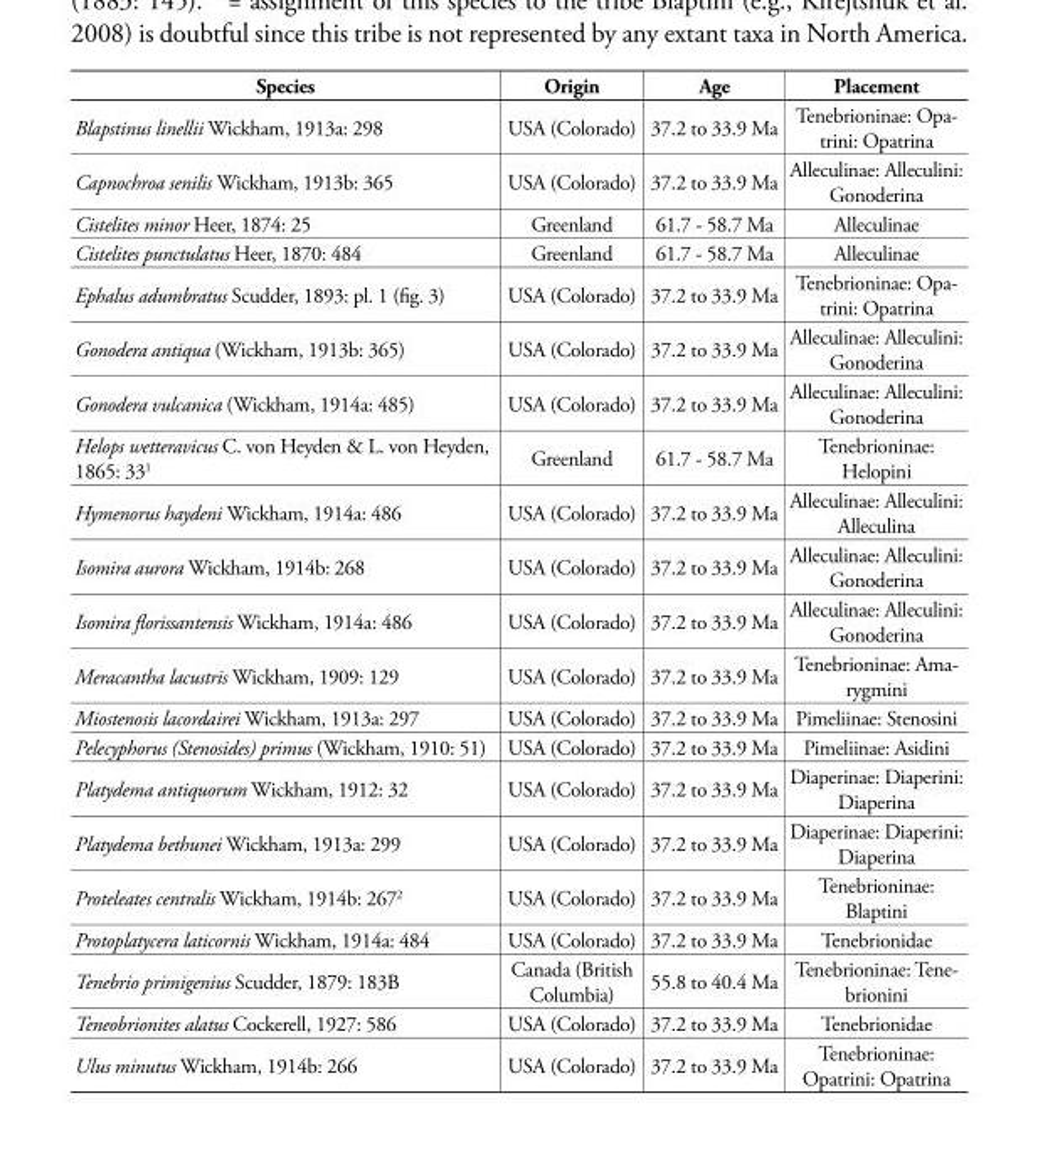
<table><thead><tr><td>Species</td><td>Origin</td><td>Age</td><td>Placement</td></tr></thead><tbody><tr><td>Blapstinus linellii Wickham, 1913a: 298</td><td>USA (Colorado)</td><td>37.2 to 33.9 Ma</td><td>Tenebrioninae: Opa- trini: Opatrina</td></tr><tr><td>Capnochroa senilis Wickham, 1913b: 365</td><td>USA (Colorado)</td><td>37.2 to 33.9 Ma</td><td>Alleculinae: Alleculini: Gonoderina</td></tr><tr><td>Cistelites minor Heer, 1874: 25</td><td>Greenland</td><td>61.7 - 58.7 Ma</td><td>Alleculinae</td></tr><tr><td>Cistelites punctulatus Heer, 1870: 484</td><td>Greenland</td><td>61.7 - 58.7 Ma</td><td>Alleculinae</td></tr><tr><td>Ephalus adumbratus Scudder, 1893: pl. 1 (fig. 3)</td><td>USA (Colorado)</td><td>37.2 to 33.9 Ma</td><td>Tenebrioninae: Opa- trini: Opatrina</td></tr><tr><td>Gonodera antiqua (Wickham, 1913b: 365)</td><td>USA (Colorado)</td><td>37.2 to 33.9 Ma</td><td>Alleculinae: Alleculini: Gonoderina</td></tr><tr><td>Gonodera vulcanica (Wickham, 1914a: 485)</td><td>USA (Colorado)</td><td>37.2 to 33.9 Ma</td><td>Alleculinae: Alleculini: Gonoderina</td></tr><tr><td>Helops wetteravicus C. von Heyden &amp; L. von Heyden, 1865: 33<sup>1</sup></td><td>Greenland</td><td>61.7 - 58.7 Ma</td><td>Tenebrioninae: Helopini</td></tr><tr><td>Hymenorus haydeni Wickham, 1914a: 486</td><td>USA (Colorado)</td><td>37.2 to 33.9 Ma</td><td>Alleculinae: Alleculini: Alleculina</td></tr><tr><td>Isomira aurora Wickham, 1914b: 268</td><td>USA (Colorado)</td><td>37.2 to 33.9 Ma</td><td>Alleculinae: Alleculini: Gonoderina</td></tr><tr><td>Isomira florissantensis Wickham, 1914a: 486</td><td>USA (Colorado)</td><td>37.2 to 33.9 Ma</td><td>Alleculinae: Alleculini: Gonoderina</td></tr><tr><td>Meracantha lacustris Wickham, 1909: 129</td><td>USA (Colorado)</td><td>37.2 to 33.9 Ma</td><td>Tenebrioninae: Ama- rygmini</td></tr><tr><td>Miostenosis lacordairei Wickham, 1913a: 297</td><td>USA (Colorado)</td><td>37.2 to 33.9 Ma</td><td>Pimeliinae: Stenosini</td></tr><tr><td>Pelecyphorus (Stenosides) primus (Wickham, 1910: 51)</td><td>USA (Colorado)</td><td>37.2 to 33.9 Ma</td><td>Pimeliinae: Asidini</td></tr><tr><td>Platydema antiquorum Wickham, 1912: 32</td><td>USA (Colorado)</td><td>37.2 to 33.9 Ma</td><td>Diaperinae: Diaperini: Diaperina</td></tr><tr><td>Platydema bethunei Wickham, 1913a: 299</td><td>USA (Colorado)</td><td>37.2 to 33.9 Ma</td><td>Diaperinae: Diaperini: Diaperina</td></tr><tr><td>Proteleates centralis Wickham, 1914b: 267<sup>2</sup></td><td>USA (Colorado)</td><td>37.2 to 33.9 Ma</td><td>Tenebrioninae: Blaptini</td></tr><tr><td>Protoplatycera laticornis Wickham, 1914a: 484</td><td>USA (Colorado)</td><td>37.2 to 33.9 Ma</td><td>Tenebrionidae</td></tr><tr><td>Tenebrio primigenius Scudder, 1879: 183B</td><td>Canada (British Columbia)</td><td>55.8 to 40.4 Ma</td><td>Tenebrioninae: Tene- brionini</td></tr><tr><td>Teneobrionites alatus Cockerell, 1927: 586</td><td>USA (Colorado)</td><td>37.2 to 33.9 Ma</td><td>Tenebrionidae</td></tr><tr><td>Ulus minutus Wickham, 1914b: 266</td><td>USA (Colorado)</td><td>37.2 to 33.9 Ma</td><td>Tenebrioninae: Opatrini: Opatrina</td></tr></tbody></table>